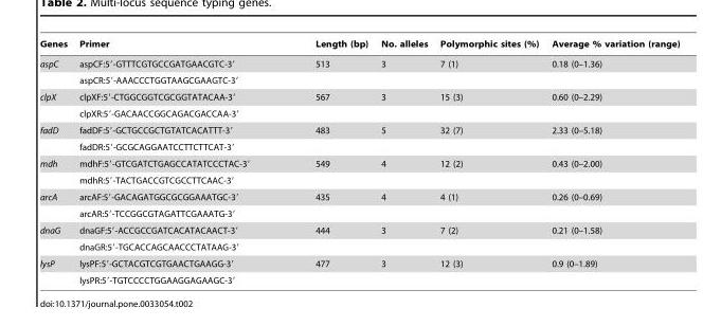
<table><thead><tr><td>Genes</td><td>Primer</td><td>Length (bp)</td><td>No. alleles</td><td>Polymorphic sites (%)</td><td>Average % variation (range)</td></tr></thead><tbody><tr><td rowspan="2">aspC</td><td>aspCF:5′-GTTTCGTGCCGATGAACGTC-3′</td><td>513</td><td>3</td><td>7 (1)</td><td>0.18 (0–1.36)</td></tr><tr><td>aspCR:5′-AAACCCTGGTAAGCGAAGTC-3′</td><td></td><td></td><td></td><td></td></tr><tr><td rowspan="2">clpX</td><td>clpXF:5′-CTGGCGGTCGCGGTATACAA-3′</td><td>567</td><td>3</td><td>15 (3)</td><td>0.60 (0–2.29)</td></tr><tr><td>clpXR:5′-GACAACCGGCAGACGACCAA-3′</td><td></td><td></td><td></td><td></td></tr><tr><td rowspan="2">fadD</td><td>fadDF:5′-GCTGCCGCTGTATCACATTT-3′</td><td>483</td><td>5</td><td>32 (7)</td><td>2.33 (0–5.18)</td></tr><tr><td>fadDR:5′-GCGCAGGAATCCTTCTTCAT-3′</td><td></td><td></td><td></td><td></td></tr><tr><td rowspan="2">mdh</td><td>mdhF:5′-GTCGATCTGAGCCATATCCCTAC-3′</td><td>549</td><td>4</td><td>12 (2)</td><td>0.43 (0–2.00)</td></tr><tr><td>mdhR:5′-TACTGACCGTCGCCTTCAAC-3′</td><td></td><td></td><td></td><td></td></tr><tr><td rowspan="2">arcA</td><td>arcAF:5′-GACAGATGGCGCGGAAATGC-3′</td><td>435</td><td>4</td><td>4 (1)</td><td>0.26 (0–0.69)</td></tr><tr><td>arcAR:5′-TCCGGCGTAGATTCGAAATG-3′</td><td></td><td></td><td></td><td></td></tr><tr><td rowspan="2">dnaG</td><td>dnaGF:5′-ACCGCCGATCACATACAACT-3′</td><td>444</td><td>3</td><td>7 (2)</td><td>0.21 (0–1.58)</td></tr><tr><td>dnaGR:5′-TGCACCAGCAACCCTATAAG-3′</td><td></td><td></td><td></td><td></td></tr><tr><td rowspan="2">lysP</td><td>lysPF:5′-GCTACGTCGTGAACTGAAGG-3′</td><td>477</td><td>3</td><td>12 (3)</td><td>0.9 (0–1.89)</td></tr><tr><td>lysPR:5′-TGTCCCCTGGAAGGAGAAGC-3′</td><td></td><td></td><td></td><td></td></tr></tbody></table>